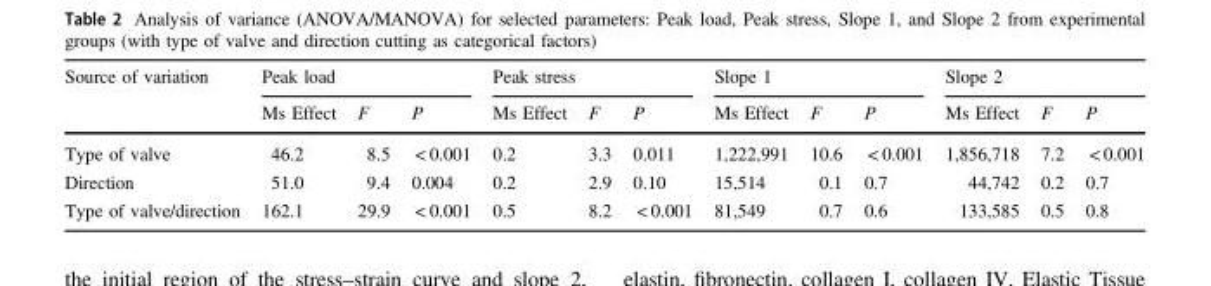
<table><thead><tr><td rowspan="2">Source of variation</td><td colspan="3">Peak load</td><td colspan="3">Peak stress</td><td colspan="3">Slope 1</td><td colspan="3">Slope 2</td></tr><tr><td>Ms Effect</td><td>F</td><td>P</td><td>Ms Effect</td><td>F</td><td>P</td><td>Ms Effect</td><td>F</td><td>P</td><td>Ms Effect</td><td>F</td><td>P</td></tr></thead><tbody><tr><td>Type of valve</td><td>46.2</td><td>8.5</td><td>&lt; 0.001</td><td>0.2</td><td>3.3</td><td>0.011</td><td>1,222,991</td><td>10.6</td><td>&lt; 0.001</td><td>1,856,718</td><td>7.2</td><td>&lt; 0.001</td></tr><tr><td>Direction</td><td>51.0</td><td>9.4</td><td>0.004</td><td>0.2</td><td>2.9</td><td>0.10</td><td>15,514</td><td>0.1</td><td>0.7</td><td>44,742</td><td>0.2</td><td>0.7</td></tr><tr><td>Type of valve/direction</td><td>162.1</td><td>29.9</td><td>&lt; 0.001</td><td>0.5</td><td>8.2</td><td>&lt; 0.001</td><td>81,549</td><td>0.7</td><td>0.6</td><td>133,585</td><td>0.5</td><td>0.8</td></tr></tbody></table>